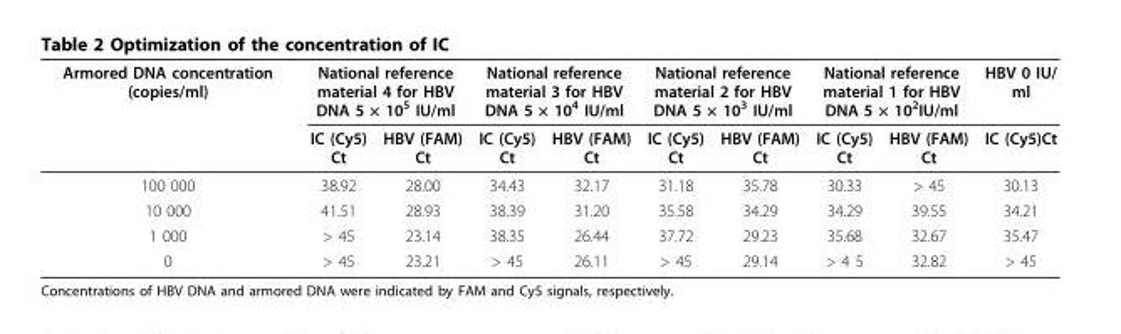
<table><thead><tr><td rowspan="2">Armored DNA concentration (copies/ml)</td><td colspan="2">National reference material 4 for HBV DNA 5 × 10<sup>5</sup> IU/ml</td><td colspan="2">National reference material 3 for HBV DNA 5 × 10<sup>4</sup> IU/ml</td><td colspan="2">National reference material 2 for HBV DNA 5 × 10<sup>3</sup> IU/ml</td><td colspan="2">National reference material 1 for HBV DNA 5 × 10<sup>2</sup>IU/ml</td><td rowspan="2">HBV 0 IU/ ml IC (Cy5)Ct</td></tr><tr><td>IC (Cy5) Ct</td><td>HBV (FAM) Ct</td><td>IC (Cy5) Ct</td><td>HBV (FAM) Ct</td><td>IC (Cy5) Ct</td><td>HBV (FAM) Ct</td><td>IC (Cy5) Ct</td><td>HBV (FAM) Ct</td></tr></thead><tbody><tr><td>100 000</td><td>38.92</td><td>28.00</td><td>34.43</td><td>32.17</td><td>31.18</td><td>35.78</td><td>30.33</td><td>&gt; 45</td><td>30.13</td></tr><tr><td>10 000</td><td>41.51</td><td>28.93</td><td>38.39</td><td>31.20</td><td>35.58</td><td>34.29</td><td>34.29</td><td>39.55</td><td>34.21</td></tr><tr><td>1 000</td><td>&gt; 45</td><td>23.14</td><td>38.35</td><td>26.44</td><td>37.72</td><td>29.23</td><td>35.68</td><td>32.67</td><td>35.47</td></tr><tr><td>0</td><td>&gt; 45</td><td>23.21</td><td>&gt; 45</td><td>26.11</td><td>&gt; 45</td><td>29.14</td><td>&gt; 4 5</td><td>32.82</td><td>&gt; 45</td></tr></tbody></table>